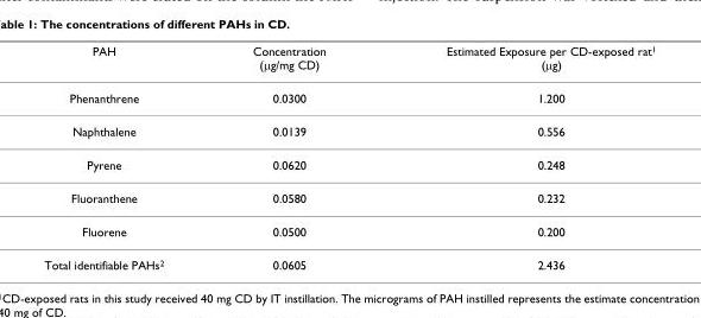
<table><thead><tr><td>PAH</td><td>Concentration (μg/mg CD)</td><td>Estimated Exposure per CD-exposed rat<sup>1</sup> (μg)</td></tr></thead><tbody><tr><td>Phenanthrene</td><td>0.0300</td><td>1.200</td></tr><tr><td>Naphthalene</td><td>0.0139</td><td>0.556</td></tr><tr><td>Pyrene</td><td>0.0620</td><td>0.248</td></tr><tr><td>Fluoranthene</td><td>0.0580</td><td>0.232</td></tr><tr><td>Fluorene</td><td>0.0500</td><td>0.200</td></tr><tr><td>Total identifiable PAHs<sup>2</sup></td><td>0.0605</td><td>2.436</td></tr></tbody></table>